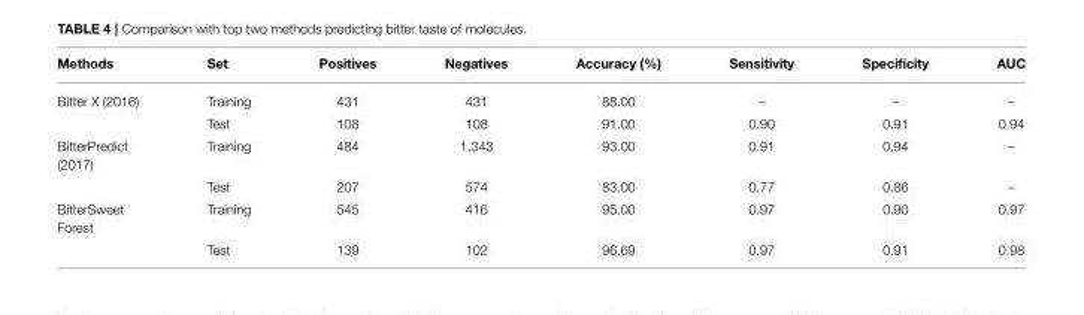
<table><thead><tr><td>Methods</td><td>Set</td><td>Positives</td><td>Negatives</td><td>Accuracy (%)</td><td>Sensitivity</td><td>Specificity</td><td>AUC</td></tr></thead><tbody><tr><td rowspan="2">Bitter X (2016)</td><td>Training</td><td>431</td><td>431</td><td>88.00</td><td>–</td><td>–</td><td>–</td></tr><tr><td>Test</td><td>108</td><td>108</td><td>91.00</td><td>0.90</td><td>0.91</td><td>0.94</td></tr><tr><td rowspan="2">BitterPredict (2017)</td><td>Training</td><td>484</td><td>1,343</td><td>93.00</td><td>0.91</td><td>0.94</td><td>–</td></tr><tr><td>Test</td><td>207</td><td>574</td><td>83.00</td><td>0.77</td><td>0.86</td><td>–</td></tr><tr><td rowspan="2">BitterSweet Forest</td><td>Training</td><td>545</td><td>416</td><td>95.00</td><td>0.97</td><td>0.90</td><td>0.97</td></tr><tr><td>Test</td><td>139</td><td>102</td><td>96.69</td><td>0.97</td><td>0.91</td><td>0.98</td></tr></tbody></table>